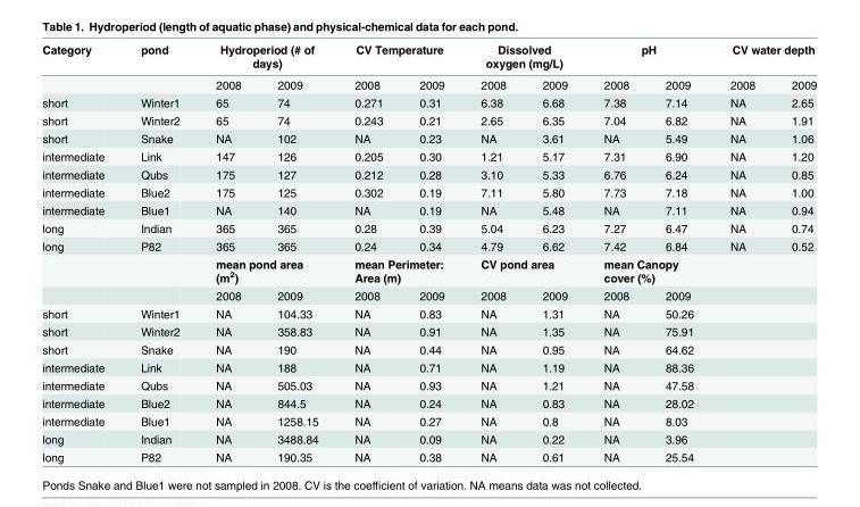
<table><thead><tr><td rowspan="2">Category</td><td rowspan="2">pond</td><td colspan="2">Hydroperiod (# of days)</td><td colspan="2">CV Temperature</td><td colspan="2">Dissolved oxygen (mg/L)</td><td colspan="2">pH</td><td colspan="2">CV water depth</td></tr><tr><td>2008</td><td>2009</td><td>2008</td><td>2009</td><td>2008</td><td>2009</td><td>2008</td><td>2009</td><td>2008</td><td>2009</td></tr></thead><tbody><tr><td>short</td><td>Winter1</td><td>65</td><td>74</td><td>0.271</td><td>0.31</td><td>6.38</td><td>6.68</td><td>7.38</td><td>7.14</td><td>NA</td><td>2.65</td></tr><tr><td>short</td><td>Winter2</td><td>65</td><td>74</td><td>0.243</td><td>0.21</td><td>2.65</td><td>6.35</td><td>7.04</td><td>6.82</td><td>NA</td><td>1.91</td></tr><tr><td>short</td><td>Snake</td><td>NA</td><td>102</td><td>NA</td><td>0.23</td><td>NA</td><td>3.61</td><td>NA</td><td>5.49</td><td>NA</td><td>1.06</td></tr><tr><td>intermediate</td><td>Link</td><td>147</td><td>126</td><td>0.205</td><td>0.30</td><td>1.21</td><td>5.17</td><td>7.31</td><td>6.90</td><td>NA</td><td>1.20</td></tr><tr><td>intermediate</td><td>Qubs</td><td>175</td><td>127</td><td>0.212</td><td>0.28</td><td>3.10</td><td>5.33</td><td>6.76</td><td>6.24</td><td>NA</td><td>0.85</td></tr><tr><td>intermediate</td><td>Blue2</td><td>175</td><td>125</td><td>0.302</td><td>0.19</td><td>7.11</td><td>5.80</td><td>7.73</td><td>7.18</td><td>NA</td><td>1.00</td></tr><tr><td>intermediate</td><td>Blue1</td><td>NA</td><td>140</td><td>NA</td><td>0.19</td><td>NA</td><td>5.48</td><td>NA</td><td>7.11</td><td>NA</td><td>0.94</td></tr><tr><td>long</td><td>Indian</td><td>365</td><td>365</td><td>0.28</td><td>0.39</td><td>5.04</td><td>6.23</td><td>7.27</td><td>6.47</td><td>NA</td><td>0.74</td></tr><tr><td rowspan="3">long</td><td>P82</td><td>365</td><td>365</td><td>0.24</td><td>0.34</td><td>4.79</td><td>6.62</td><td>7.42</td><td>6.84</td><td>NA</td><td>0.52</td></tr><tr><td></td><td colspan="2">mean pond area (m<sup>2</sup>)</td><td colspan="2">mean Perimeter: Area (m)</td><td colspan="2">CV pond area</td><td colspan="2">mean Canopy cover (%)</td><td></td><td></td></tr><tr><td></td><td>2008</td><td>2009</td><td>2008</td><td>2009</td><td>2008</td><td>2009</td><td>2008</td><td>2009</td><td></td><td></td></tr><tr><td>short</td><td>Winter1</td><td>NA</td><td>104.33</td><td>NA</td><td>0.83</td><td>NA</td><td>1.31</td><td>NA</td><td>50.26</td><td></td><td></td></tr><tr><td>short</td><td>Winter2</td><td>NA</td><td>358.83</td><td>NA</td><td>0.91</td><td>NA</td><td>1.35</td><td>NA</td><td>75.91</td><td></td><td></td></tr><tr><td>short</td><td>Snake</td><td>NA</td><td>190</td><td>NA</td><td>0.44</td><td>NA</td><td>0.95</td><td>NA</td><td>64.62</td><td></td><td></td></tr><tr><td>intermediate</td><td>Link</td><td>NA</td><td>188</td><td>NA</td><td>0.71</td><td>NA</td><td>1.19</td><td>NA</td><td>88.36</td><td></td><td></td></tr><tr><td>intermediate</td><td>Qubs</td><td>NA</td><td>505.03</td><td>NA</td><td>0.93</td><td>NA</td><td>1.21</td><td>NA</td><td>47.58</td><td></td><td></td></tr><tr><td>intermediate</td><td>Blue2</td><td>NA</td><td>844.5</td><td>NA</td><td>0.24</td><td>NA</td><td>0.83</td><td>NA</td><td>28.02</td><td></td><td></td></tr><tr><td>intermediate</td><td>Blue1</td><td>NA</td><td>1258.15</td><td>NA</td><td>0.27</td><td>NA</td><td>0.8</td><td>NA</td><td>8.03</td><td></td><td></td></tr><tr><td>long</td><td>Indian</td><td>NA</td><td>3488.84</td><td>NA</td><td>0.09</td><td>NA</td><td>0.22</td><td>NA</td><td>3.96</td><td></td><td></td></tr><tr><td>long</td><td>P82</td><td>NA</td><td>190.35</td><td>NA</td><td>0.38</td><td>NA</td><td>0.61</td><td>NA</td><td>25.54</td><td></td><td></td></tr></tbody></table>